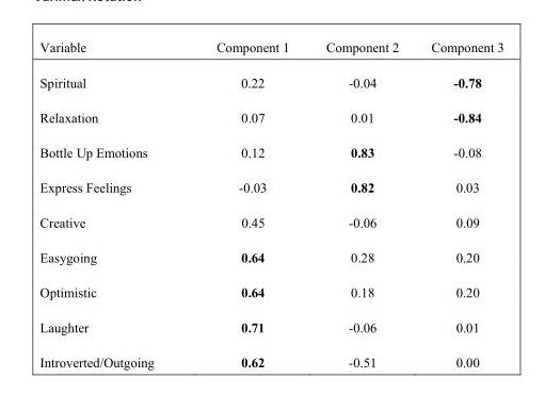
<table><thead><tr><td>Variable</td><td>Component 1</td><td>Component 2</td><td>Component 3</td></tr></thead><tbody><tr><td>Spiritual</td><td>0.22</td><td>-0.04</td><td>-0.78</td></tr><tr><td>Relaxation</td><td>0.07</td><td>0.01</td><td>-0.84</td></tr><tr><td>Bottle Up Emotions</td><td>0.12</td><td>0.83</td><td>-0.08</td></tr><tr><td>Express Feelings</td><td>-0.03</td><td>0.82</td><td>0.03</td></tr><tr><td>Creative</td><td>0.45</td><td>-0.06</td><td>0.09</td></tr><tr><td>Easygoing</td><td>0.64</td><td>0.28</td><td>0.20</td></tr><tr><td>Optimistic</td><td>0.64</td><td>0.18</td><td>0.20</td></tr><tr><td>Laughter</td><td>0.71</td><td>-0.06</td><td>0.01</td></tr><tr><td>Introverted/Outgoing</td><td>0.62</td><td>-0.51</td><td>0.00</td></tr></tbody></table>